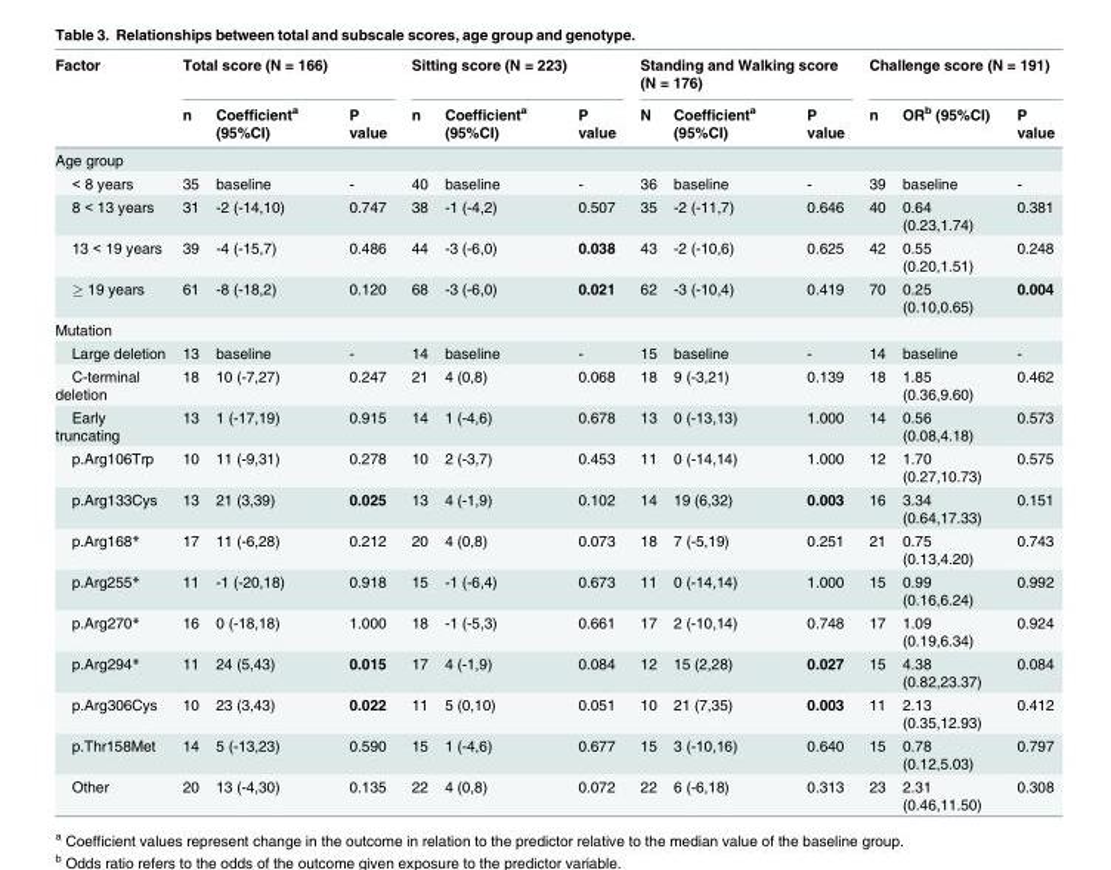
<table><thead><tr><td rowspan="2">Factor</td><td colspan="3">Total score (N = 166)</td><td colspan="3">Sitting score (N = 223)</td><td colspan="3">Standing and Walking score (N = 176)</td><td colspan="3">Challenge score (N = 191)</td></tr><tr><td>n</td><td>Coefficient<sup>a</sup> (95%CI)</td><td>P value</td><td>n</td><td>Coefficient<sup>a</sup> (95%CI)</td><td>P value</td><td>N</td><td>Coefficient<sup>a</sup> (95%CI)</td><td>P value</td><td>n</td><td>OR<sup>b</sup> (95%CI)</td><td>P value</td></tr></thead><tbody><tr><td colspan="13">Age group</td></tr><tr><td>&lt; 8 years</td><td>35</td><td>baseline</td><td>-</td><td>40</td><td>baseline</td><td>-</td><td>36</td><td>baseline</td><td>-</td><td>39</td><td>baseline</td><td>-</td></tr><tr><td>8 &lt; 13 years</td><td>31</td><td>-2 (-14,10)</td><td>0.747</td><td>38</td><td>-1 (-4,2)</td><td>0.507</td><td>35</td><td>-2 (-11,7)</td><td>0.646</td><td>40</td><td>0.64 (0.23,1.74)</td><td>0.381</td></tr><tr><td>13 &lt; 19 years</td><td>39</td><td>-4 (-15,7)</td><td>0.486</td><td>44</td><td>-3 (-6,0)</td><td>0.038</td><td>43</td><td>-2 (-10,6)</td><td>0.625</td><td>42</td><td>0.55 (0.20,1.51)</td><td>0.248</td></tr><tr><td>≥ 19 years</td><td>61</td><td>-8 (-18,2)</td><td>0.120</td><td>68</td><td>-3 (-6,0)</td><td>0.021</td><td>62</td><td>-3 (-10,4)</td><td>0.419</td><td>70</td><td>0.25 (0.10,0.65)</td><td>0.004</td></tr><tr><td colspan="13">Mutation</td></tr><tr><td>Large deletion</td><td>13</td><td>baseline</td><td>-</td><td>14</td><td>baseline</td><td>-</td><td>15</td><td>baseline</td><td>-</td><td>14</td><td>baseline</td><td>-</td></tr><tr><td>C-terminal deletion</td><td>18</td><td>10 (-7,27)</td><td>0.247</td><td>21</td><td>4 (0,8)</td><td>0.068</td><td>18</td><td>9 (-3,21)</td><td>0.139</td><td>18</td><td>1.85 (0.36,9.60)</td><td>0.462</td></tr><tr><td>Early truncating</td><td>13</td><td>1 (-17,19)</td><td>0.915</td><td>14</td><td>1 (-4,6)</td><td>0.678</td><td>13</td><td>0 (-13,13)</td><td>1.000</td><td>14</td><td>0.56 (0.08,4.18)</td><td>0.573</td></tr><tr><td>p.Arg106Trp</td><td>10</td><td>11 (-9,31)</td><td>0.278</td><td>10</td><td>2 (-3,7)</td><td>0.453</td><td>11</td><td>0 (-14,14)</td><td>1.000</td><td>12</td><td>1.70 (0.27,10.73)</td><td>0.575</td></tr><tr><td>p.Arg133Cys</td><td>13</td><td>21 (3,39)</td><td>0.025</td><td>13</td><td>4 (-1,9)</td><td>0.102</td><td>14</td><td>19 (6,32)</td><td>0.003</td><td>16</td><td>3.34 (0.64,17.33)</td><td>0.151</td></tr><tr><td>p.Arg168*</td><td>17</td><td>11 (-6,28)</td><td>0.212</td><td>20</td><td>4 (0,8)</td><td>0.073</td><td>18</td><td>7 (-5,19)</td><td>0.251</td><td>21</td><td>0.75 (0.13,4.20)</td><td>0.743</td></tr><tr><td>p.Arg255*</td><td>11</td><td>-1 (-20,18)</td><td>0.918</td><td>15</td><td>-1 (-6,4)</td><td>0.673</td><td>11</td><td>0 (-14,14)</td><td>1.000</td><td>15</td><td>0.99 (0.16,6.24)</td><td>0.992</td></tr><tr><td>p.Arg270*</td><td>16</td><td>0 (-18,18)</td><td>1.000</td><td>18</td><td>-1 (-5,3)</td><td>0.661</td><td>17</td><td>2 (-10,14)</td><td>0.748</td><td>17</td><td>1.09 (0.19,6.34)</td><td>0.924</td></tr><tr><td>p.Arg294*</td><td>11</td><td>24 (5,43)</td><td>0.015</td><td>17</td><td>4 (-1,9)</td><td>0.084</td><td>12</td><td>15 (2,28)</td><td>0.027</td><td>15</td><td>4.38 (0.82,23.37)</td><td>0.084</td></tr><tr><td>p.Arg306Cys</td><td>10</td><td>23 (3,43)</td><td>0.022</td><td>11</td><td>5 (0,10)</td><td>0.051</td><td>10</td><td>21 (7,35)</td><td>0.003</td><td>11</td><td>2.13 (0.35,12.93)</td><td>0.412</td></tr><tr><td>p.Thr158Met</td><td>14</td><td>5 (-13,23)</td><td>0.590</td><td>15</td><td>1 (-4,6)</td><td>0.677</td><td>15</td><td>3 (-10,16)</td><td>0.640</td><td>15</td><td>0.78 (0.12,5.03)</td><td>0.797</td></tr><tr><td>Other</td><td>20</td><td>13 (-4,30)</td><td>0.135</td><td>22</td><td>4 (0,8)</td><td>0.072</td><td>22</td><td>6 (-6,18)</td><td>0.313</td><td>23</td><td>2.31 (0.46,11.50)</td><td>0.308</td></tr></tbody></table>